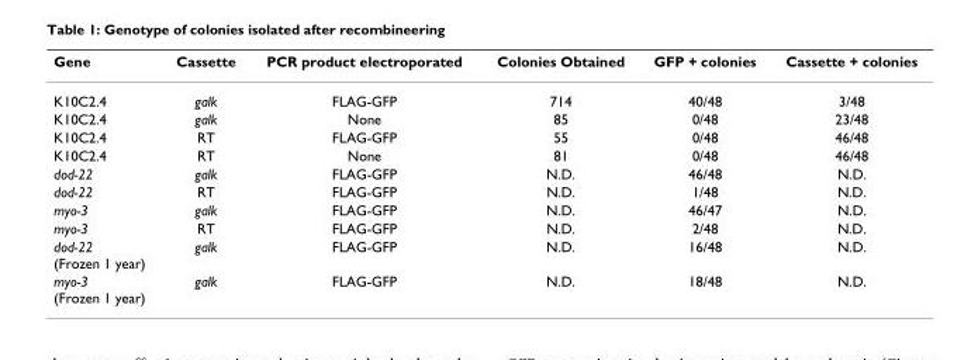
<table><thead><tr><td>Gene</td><td>Cassette</td><td>PCR product electroporated</td><td>Colonies Obtained</td><td>GFP + colonies</td><td>Cassette + colonies</td></tr></thead><tbody><tr><td>K10C2.4</td><td>galk</td><td>FLAG-GFP</td><td>714</td><td>40/48</td><td>3/48</td></tr><tr><td>K10C2.4</td><td>galk</td><td>None</td><td>85</td><td>0/48</td><td>23/48</td></tr><tr><td>K10C2.4</td><td>RT</td><td>FLAG-GFP</td><td>55</td><td>0/48</td><td>46/48</td></tr><tr><td>K10C2.4</td><td>RT</td><td>None</td><td>81</td><td>0/48</td><td>46/48</td></tr><tr><td>dod-22</td><td>galk</td><td>FLAG-GFP</td><td>N.D.</td><td>46/48</td><td>N.D.</td></tr><tr><td>dod-22</td><td>RT</td><td>FLAG-GFP</td><td>N.D.</td><td>1/48</td><td>N.D.</td></tr><tr><td>myo-3</td><td>galk</td><td>FLAG-GFP</td><td>N.D.</td><td>46/47</td><td>N.D.</td></tr><tr><td>myo-3</td><td>RT</td><td>FLAG-GFP</td><td>N.D.</td><td>2/48</td><td>N.D.</td></tr><tr><td>dod-22 (Frozen 1 year)</td><td>galk</td><td>FLAG-GFP</td><td>N.D.</td><td>16/48</td><td>N.D.</td></tr><tr><td>myo-3 (Frozen 1 year)</td><td>galk</td><td>FLAG-GFP</td><td>N.D.</td><td>18/48</td><td>N.D.</td></tr></tbody></table>